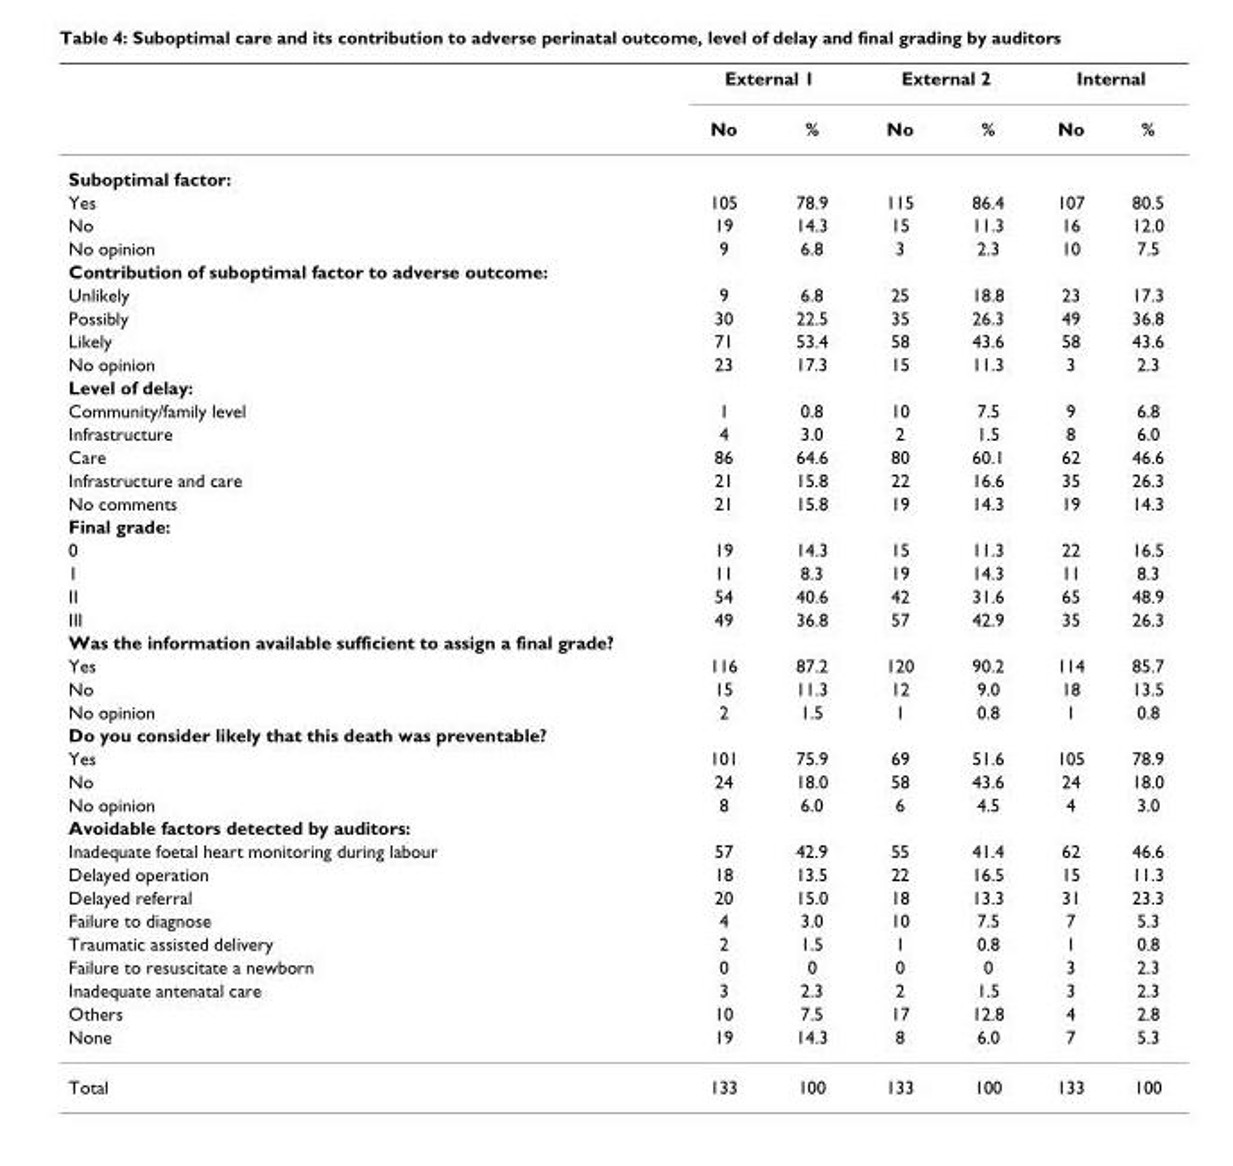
<table><thead><tr><td rowspan="2"></td><td colspan="2">External 1</td><td colspan="2">External 2</td><td colspan="2">Internal</td></tr><tr><td>No</td><td>%</td><td>No</td><td>%</td><td>No</td><td>%</td></tr></thead><tbody><tr><td colspan="7">Suboptimal factor:</td></tr><tr><td>Yes</td><td>105</td><td>78.9</td><td>115</td><td>86.4</td><td>107</td><td>80.5</td></tr><tr><td>No</td><td>19</td><td>14.3</td><td>15</td><td>11.3</td><td>16</td><td>12.0</td></tr><tr><td>No opinion</td><td>9</td><td>6.8</td><td>3</td><td>2.3</td><td>10</td><td>7.5</td></tr><tr><td colspan="7">Contribution of suboptimal factor to adverse outcome:</td></tr><tr><td>Unlikely</td><td>9</td><td>6.8</td><td>25</td><td>18.8</td><td>23</td><td>17.3</td></tr><tr><td>Possibly</td><td>30</td><td>22.5</td><td>35</td><td>26.3</td><td>49</td><td>36.8</td></tr><tr><td>Likely</td><td>71</td><td>53.4</td><td>58</td><td>43.6</td><td>58</td><td>43.6</td></tr><tr><td>No opinion</td><td>23</td><td>17.3</td><td>15</td><td>11.3</td><td>3</td><td>2.3</td></tr><tr><td colspan="7">Level of delay:</td></tr><tr><td>Community/family level</td><td>1</td><td>0.8</td><td>10</td><td>7.5</td><td>9</td><td>6.8</td></tr><tr><td>Infrastructure</td><td>4</td><td>3.0</td><td>2</td><td>1.5</td><td>8</td><td>6.0</td></tr><tr><td>Care</td><td>86</td><td>64.6</td><td>80</td><td>60.1</td><td>62</td><td>46.6</td></tr><tr><td>Infrastructure and care</td><td>21</td><td>15.8</td><td>22</td><td>16.6</td><td>35</td><td>26.3</td></tr><tr><td>No comments</td><td>21</td><td>15.8</td><td>19</td><td>14.3</td><td>19</td><td>14.3</td></tr><tr><td colspan="7">Final grade:</td></tr><tr><td>0</td><td>19</td><td>14.3</td><td>15</td><td>11.3</td><td>22</td><td>16.5</td></tr><tr><td>1</td><td>11</td><td>8.3</td><td>19</td><td>14.3</td><td>11</td><td>8.3</td></tr><tr><td>II</td><td>54</td><td>40.6</td><td>42</td><td>31.6</td><td>65</td><td>48.9</td></tr><tr><td>III</td><td>49</td><td>36.8</td><td>57</td><td>42.9</td><td>35</td><td>26.3</td></tr><tr><td colspan="7">Was the information available sufficient to assign a final grade?</td></tr><tr><td>Yes</td><td>116</td><td>87.2</td><td>120</td><td>90.2</td><td>114</td><td>85.7</td></tr><tr><td>No</td><td>15</td><td>11.3</td><td>12</td><td>9.0</td><td>18</td><td>13.5</td></tr><tr><td>No opinion</td><td>2</td><td>1.5</td><td>1</td><td>0.8</td><td>1</td><td>0.8</td></tr><tr><td colspan="7">Do you consider likely that this death was preventable?</td></tr><tr><td>Yes</td><td>101</td><td>75.9</td><td>69</td><td>51.6</td><td>105</td><td>78.9</td></tr><tr><td>No</td><td>24</td><td>18.0</td><td>58</td><td>43.6</td><td>24</td><td>18.0</td></tr><tr><td>No opinion</td><td>8</td><td>6.0</td><td>6</td><td>4.5</td><td>4</td><td>3.0</td></tr><tr><td colspan="7">Avoidable factors detected by auditors:</td></tr><tr><td>Inadequate foetal heart monitoring during labour</td><td>57</td><td>42.9</td><td>55</td><td>41.4</td><td>62</td><td>46.6</td></tr><tr><td>Delayed operation</td><td>18</td><td>13.5</td><td>22</td><td>16.5</td><td>15</td><td>11.3</td></tr><tr><td>Delayed referral</td><td>20</td><td>15.0</td><td>18</td><td>13.3</td><td>31</td><td>23.3</td></tr><tr><td>Failure to diagnose</td><td>4</td><td>3.0</td><td>10</td><td>7.5</td><td>7</td><td>5.3</td></tr><tr><td>Traumatic assisted delivery</td><td>2</td><td>1.5</td><td>1</td><td>0.8</td><td>1</td><td>0.8</td></tr><tr><td>Failure to resuscitate a newborn</td><td>0</td><td>0</td><td>0</td><td>0</td><td>3</td><td>2.3</td></tr><tr><td>Inadequate antenatal care</td><td>3</td><td>2.3</td><td>2</td><td>1.5</td><td>3</td><td>2.3</td></tr><tr><td>Others</td><td>10</td><td>7.5</td><td>17</td><td>12.8</td><td>4</td><td>2.8</td></tr><tr><td>None</td><td>19</td><td>14.3</td><td>8</td><td>6.0</td><td>7</td><td>5.3</td></tr><tr><td>Total</td><td>133</td><td>100</td><td>133</td><td>100</td><td>133</td><td>100</td></tr></tbody></table>